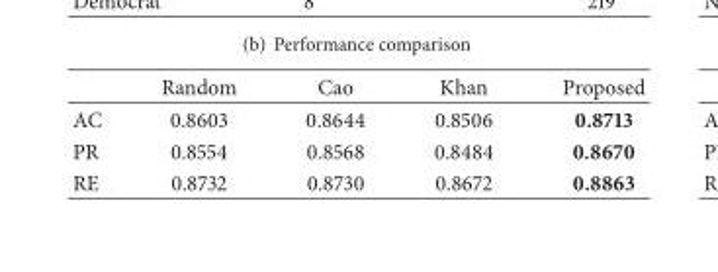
<table><thead><tr><td></td><td>Random</td><td>Cao</td><td>Khan</td><td>Proposed</td></tr></thead><tbody><tr><td>AC</td><td>0.8603</td><td>0.8644</td><td>0.8506</td><td>0.8713</td></tr><tr><td>PR</td><td>0.8554</td><td>0.8568</td><td>0.8484</td><td>0.8670</td></tr><tr><td>RE</td><td>0.8732</td><td>0.8730</td><td>0.8672</td><td>0.8863</td></tr></tbody></table>